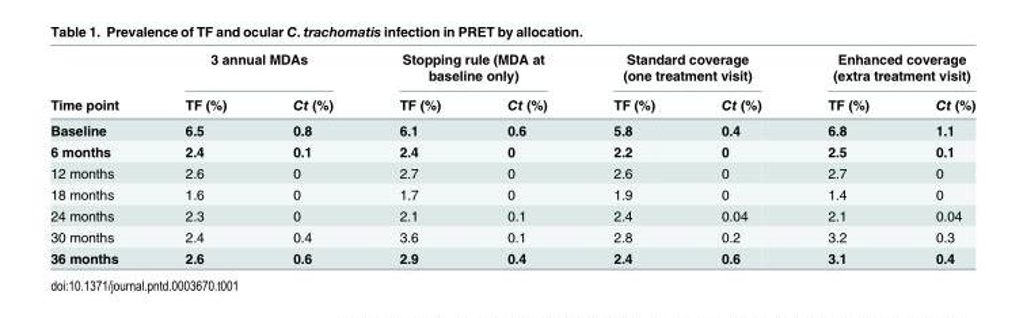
<table><thead><tr><td rowspan="2">Time point</td><td colspan="2">3 annual MDAs</td><td colspan="2">Stopping rule (MDA at baseline only)</td><td colspan="2">Standard coverage (one treatment visit)</td><td colspan="2">Enhanced coverage (extra treatment visit)</td></tr><tr><td>TF (%)</td><td>Ct (%)</td><td>TF (%)</td><td>Ct (%)</td><td>TF (%)</td><td>Ct (%)</td><td>TF (%)</td><td>Ct (%)</td></tr></thead><tbody><tr><td>Baseline</td><td>6.5</td><td>0.8</td><td>6.1</td><td>0.6</td><td>5.8</td><td>0.4</td><td>6.8</td><td>1.1</td></tr><tr><td>6 months</td><td>2.4</td><td>0.1</td><td>2.4</td><td>0</td><td>2.2</td><td>0</td><td>2.5</td><td>0.1</td></tr><tr><td>12 months</td><td>2.6</td><td>0</td><td>2.7</td><td>0</td><td>2.6</td><td>0</td><td>2.7</td><td>0</td></tr><tr><td>18 months</td><td>1.6</td><td>0</td><td>1.7</td><td>0</td><td>1.9</td><td>0</td><td>1.4</td><td>0</td></tr><tr><td>24 months</td><td>2.3</td><td>0</td><td>2.1</td><td>0.1</td><td>2.4</td><td>0.04</td><td>2.1</td><td>0.04</td></tr><tr><td>30 months</td><td>2.4</td><td>0.4</td><td>3.6</td><td>0.1</td><td>2.8</td><td>0.2</td><td>3.2</td><td>0.3</td></tr><tr><td>36 months</td><td>2.6</td><td>0.6</td><td>2.9</td><td>0.4</td><td>2.4</td><td>0.6</td><td>3.1</td><td>0.4</td></tr></tbody></table>